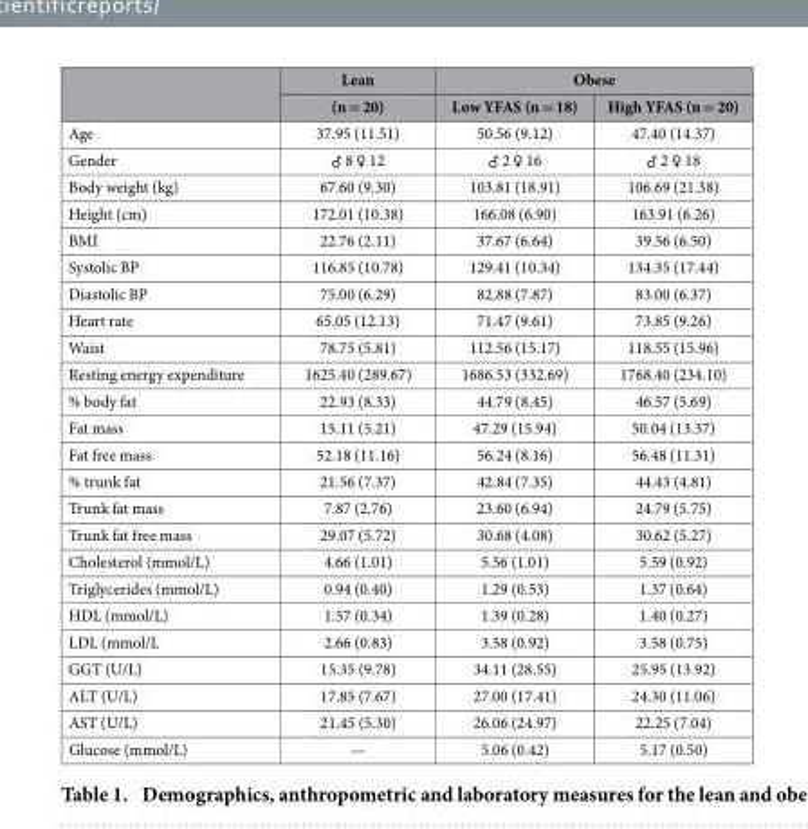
<table><thead><tr><td rowspan="2"></td><td rowspan="2">Lean (n = 20)</td><td colspan="2">Obese</td></tr><tr><td>Low YFAS (n = 18)</td><td>High YFAS (n = 20)</td></tr></thead><tbody><tr><td>Age</td><td>37.95 (11.51)</td><td>50.56 (9.12)</td><td>47.40 (14.37)</td></tr><tr><td>Gender</td><td>♂ 8 ♀ 12</td><td>♂ 2 ♀ 16</td><td>♂ 2 ♀ 18</td></tr><tr><td>Body weight (kg)</td><td>67.60 (9.30)</td><td>103.81 (18.91)</td><td>106.69 (21.38)</td></tr><tr><td>Height (cm)</td><td>172.01 (10.38)</td><td>166.08 (6.90)</td><td>163.91 (6.26)</td></tr><tr><td>BMI</td><td>22.76 (2.11)</td><td>37.67 (6.64)</td><td>39.56 (6.50)</td></tr><tr><td>Systolic BP</td><td>116.85 (10.78)</td><td>129.41 (10.34)</td><td>134.35 (17.44)</td></tr><tr><td>Diastolic BP</td><td>75.00 (6.29)</td><td>82.88 (7.87)</td><td>83.00 (6.37)</td></tr><tr><td>Heart rate</td><td>65.05 (12.13)</td><td>71.47 (9.61)</td><td>73.85 (9.26)</td></tr><tr><td>Waist</td><td>78.75 (5.81)</td><td>112.56 (15.17)</td><td>118.55 (15.96)</td></tr><tr><td>Resting energy expenditure</td><td>1625.40 (289.67)</td><td>1686.53 (332.69)</td><td>1768.40 (234.10)</td></tr><tr><td>% body fat</td><td>22.93 (8.33)</td><td>44.79 (8.45)</td><td>46.57 (5.69)</td></tr><tr><td>Fat mass</td><td>15.11 (5.21)</td><td>47.29 (15.94)</td><td>50.04 (13.37)</td></tr><tr><td>Fat free mass</td><td>52.18 (11.16)</td><td>56.24 (8.16)</td><td>56.48 (11.31)</td></tr><tr><td>% trunk fat</td><td>21.56 (7.37)</td><td>42.84 (7.35)</td><td>44.43 (4.81)</td></tr><tr><td>Trunk fat mass</td><td>7.87 (2.76)</td><td>23.60 (6.94)</td><td>24.79 (5.75)</td></tr><tr><td>Trunk fat free mass</td><td>29.07 (5.72)</td><td>30.68 (4.08)</td><td>30.62 (5.27)</td></tr><tr><td>Cholesterol (mmol/L)</td><td>4.66 (1.01)</td><td>5.56 (1.01)</td><td>5.59 (0.92)</td></tr><tr><td>Triglycerides (mmol/L)</td><td>0.94 (0.40)</td><td>1.29 (0.53)</td><td>1.37 (0.64)</td></tr><tr><td>HDL (mmol/L)</td><td>1.57 (0.34)</td><td>1.39 (0.28)</td><td>1.40 (0.27)</td></tr><tr><td>LDL (mmol/L</td><td>2.66 (0.83)</td><td>3.58 (0.92)</td><td>3.58 (0.75)</td></tr><tr><td>GGT (U/L)</td><td>15.35 (9.78)</td><td>34.11 (28.55)</td><td>25.95 (13.92)</td></tr><tr><td>ALT (U/L)</td><td>17.85 (7.67)</td><td>27.00 (17.41)</td><td>24.30 (11.06)</td></tr><tr><td>AST (U/L)</td><td>21.45 (5.30)</td><td>26.06 (24.97)</td><td>22.25 (7.04)</td></tr><tr><td>Glucose (mmol/L)</td><td>—</td><td>5.06 (0.42)</td><td>5.17 (0.50)</td></tr></tbody></table>